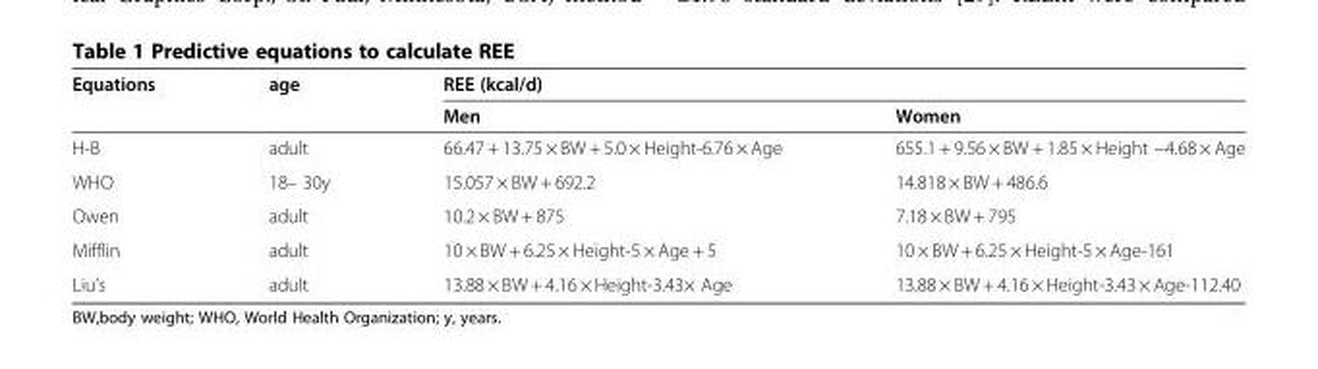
<table><thead><tr><td rowspan="2">Equations</td><td rowspan="2">age</td><td colspan="2">REE (kcal/d)</td></tr><tr><td>Men</td><td>Women</td></tr></thead><tbody><tr><td>H-B</td><td>adult</td><td>66.47 + 13.75 × BW + 5.0 × Height-6.76 × Age</td><td>655.1 + 9.56 × BW + 1.85 × Height −4.68 × Age</td></tr><tr><td>WHO</td><td>18– 30y</td><td>15.057 × BW + 692.2</td><td>14.818 × BW + 486.6</td></tr><tr><td>Owen</td><td>adult</td><td>10.2 × BW + 875</td><td>7.18 × BW + 795</td></tr><tr><td>Mifflin</td><td>adult</td><td>10 × BW + 6.25 × Height-5 × Age + 5</td><td>10 × BW + 6.25 × Height-5 × Age-161</td></tr><tr><td>Liu’s</td><td>adult</td><td>13.88 × BW + 4.16 × Height-3.43× Age</td><td>13.88 × BW + 4.16 × Height-3.43 × Age-112.40</td></tr></tbody></table>